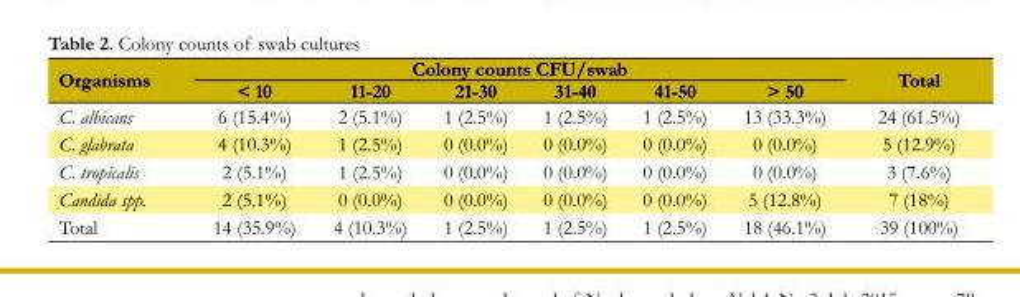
<table><tbody><tr><td rowspan="2">Organisms</td><td colspan="6">Colony counts CFU/swab</td><td rowspan="2">Total</td></tr><tr><td>&lt; 10</td><td>11-20</td><td>21-30</td><td>31-40</td><td>41-50</td><td>&gt; 50</td></tr><tr><td>C. albicans</td><td>6 (15.4%)</td><td>2 (5.1%)</td><td>1 (2.5%)</td><td>1 (2.5%)</td><td>1 (2.5%)</td><td>13 (33.3%)</td><td>24 (61.5%)</td></tr><tr><td>C. glabrata</td><td>4 (10.3%)</td><td>1 (2.5%)</td><td>0 (0.0%)</td><td>0 (0.0%)</td><td>0 (0.0%)</td><td>0 (0.0%)</td><td>5 (12.9%)</td></tr><tr><td>C. tropicalis</td><td>2 (5.1%)</td><td>1 (2.5%)</td><td>0 (0.0%)</td><td>0 (0.0%)</td><td>0 (0.0%)</td><td>0 (0.0%)</td><td>3 (7.6%)</td></tr><tr><td>Candida spp.</td><td>2 (5.1%)</td><td>0 (0.0%)</td><td>0 (0.0%)</td><td>0 (0.0%)</td><td>0 (0.0%)</td><td>5 (12.8%)</td><td>7 (18%)</td></tr><tr><td>Total</td><td>14 (35.9%)</td><td>4 (10.3%)</td><td>1 (2.5%)</td><td>1 (2.5%)</td><td>1 (2.5%)</td><td>18 (46.1%)</td><td>39 (100%)</td></tr></tbody></table>